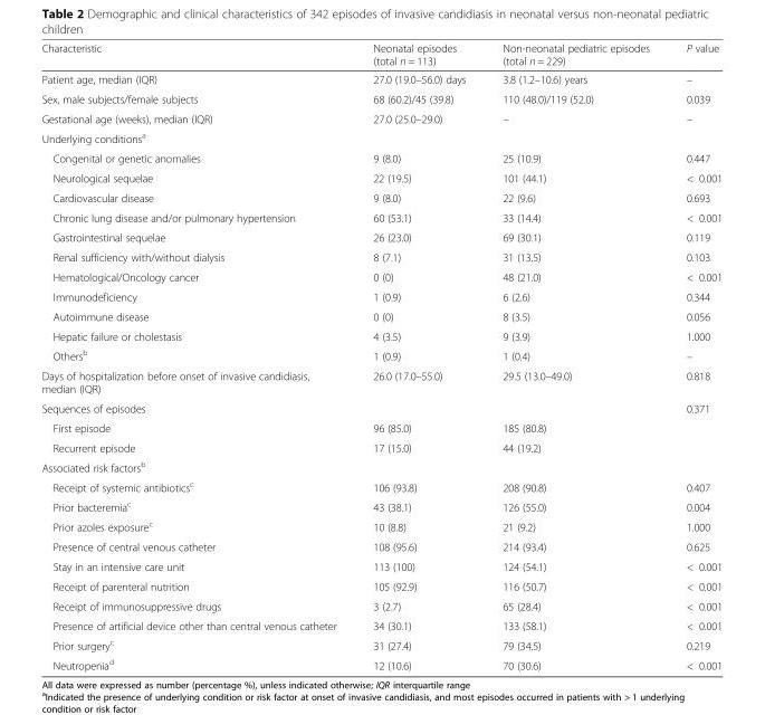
<table><thead><tr><td>Characteristic</td><td>Neonatal episodes (total n = 113)</td><td>Non-neonatal pediatric episodes (total n = 229)</td><td>P value</td></tr></thead><tbody><tr><td>Patient age, median (IQR)</td><td>27.0 (19.0–56.0) days</td><td>3.8 (1.2–10.6) years</td><td>–</td></tr><tr><td>Sex, male subjects/female subjects</td><td>68 (60.2)/45 (39.8)</td><td>110 (48.0)/119 (52.0)</td><td>0.039</td></tr><tr><td>Gestational age (weeks), median (IQR)</td><td>27.0 (25.0–29.0)</td><td>–</td><td>–</td></tr><tr><td colspan="4">Underlying conditions<sup>a</sup></td></tr><tr><td>Congenital or genetic anomalies</td><td>9 (8.0)</td><td>25 (10.9)</td><td>0.447</td></tr><tr><td>Neurological sequelae</td><td>22 (19.5)</td><td>101 (44.1)</td><td>&lt; 0.001</td></tr><tr><td>Cardiovascular disease</td><td>9 (8.0)</td><td>22 (9.6)</td><td>0.693</td></tr><tr><td>Chronic lung disease and/or pulmonary hypertension</td><td>60 (53.1)</td><td>33 (14.4)</td><td>&lt; 0.001</td></tr><tr><td>Gastrointestinal sequelae</td><td>26 (23.0)</td><td>69 (30.1)</td><td>0.119</td></tr><tr><td>Renal sufficiency with/without dialysis</td><td>8 (7.1)</td><td>31 (13.5)</td><td>0.103</td></tr><tr><td>Hematological/Oncology cancer</td><td>0 (0)</td><td>48 (21.0)</td><td>&lt; 0.001</td></tr><tr><td>Immunodeficiency</td><td>1 (0.9)</td><td>6 (2.6)</td><td>0.344</td></tr><tr><td>Autoimmune disease</td><td>0 (0)</td><td>8 (3.5)</td><td>0.056</td></tr><tr><td>Hepatic failure or cholestasis</td><td>4 (3.5)</td><td>9 (3.9)</td><td>1.000</td></tr><tr><td>Others<sup>b</sup></td><td>1 (0.9)</td><td>1 (0.4)</td><td>–</td></tr><tr><td>Days of hospitalization before onset of invasive candidiasis, median (IQR)</td><td>26.0 (17.0–55.0)</td><td>29.5 (13.0–49.0)</td><td>0.818</td></tr><tr><td>Sequences of episodes</td><td></td><td></td><td>0.371</td></tr><tr><td>First episode</td><td>96 (85.0)</td><td>185 (80.8)</td><td></td></tr><tr><td>Recurrent episode</td><td>17 (15.0)</td><td>44 (19.2)</td><td></td></tr><tr><td colspan="4">Associated risk factors<sup>b</sup></td></tr><tr><td>Receipt of systemic antibiotics<sup>c</sup></td><td>106 (93.8)</td><td>208 (90.8)</td><td>0.407</td></tr><tr><td>Prior bacteremia<sup>c</sup></td><td>43 (38.1)</td><td>126 (55.0)</td><td>0.004</td></tr><tr><td>Prior azoles exposure<sup>c</sup></td><td>10 (8.8)</td><td>21 (9.2)</td><td>1.000</td></tr><tr><td>Presence of central venous catheter</td><td>108 (95.6)</td><td>214 (93.4)</td><td>0.625</td></tr><tr><td>Stay in an intensive care unit</td><td>113 (100)</td><td>124 (54.1)</td><td>&lt; 0.001</td></tr><tr><td>Receipt of parenteral nutrition</td><td>105 (92.9)</td><td>116 (50.7)</td><td>&lt; 0.001</td></tr><tr><td>Receipt of immunosuppressive drugs</td><td>3 (2.7)</td><td>65 (28.4)</td><td>&lt; 0.001</td></tr><tr><td>Presence of artificial device other than central venous catheter</td><td>34 (30.1)</td><td>133 (58.1)</td><td>&lt; 0.001</td></tr><tr><td>Prior surgery<sup>c</sup></td><td>31 (27.4)</td><td>79 (34.5)</td><td>0.219</td></tr><tr><td>Neutropenia<sup>d</sup></td><td>12 (10.6)</td><td>70 (30.6)</td><td>&lt; 0.001</td></tr></tbody></table>